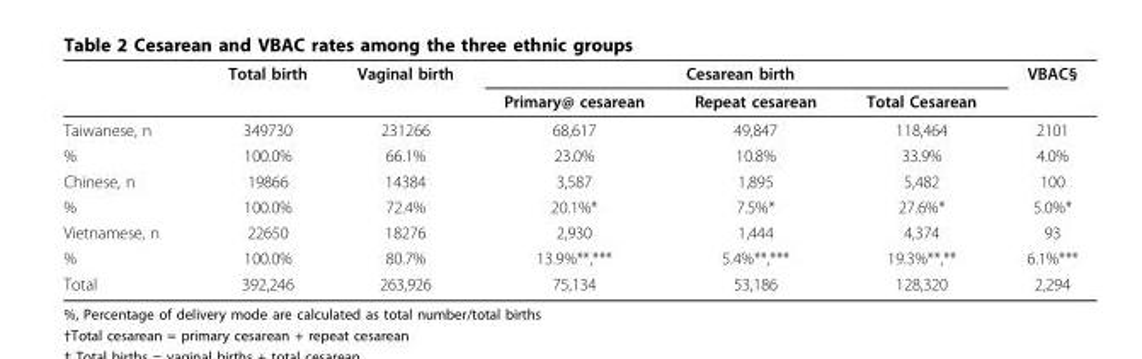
<table><thead><tr><td rowspan="2"></td><td rowspan="2">Total birth</td><td rowspan="2">Vaginal birth</td><td colspan="3">Cesarean birth</td><td rowspan="2">VBAC§</td></tr><tr><td>Primary@ cesarean</td><td>Repeat cesarean</td><td>Total Cesarean</td></tr></thead><tbody><tr><td>Taiwanese, n</td><td>349730</td><td>231266</td><td>68,617</td><td>49,847</td><td>118,464</td><td>2101</td></tr><tr><td>%</td><td>100.0%</td><td>66.1%</td><td>23.0%</td><td>10.8%</td><td>33.9%</td><td>4.0%</td></tr><tr><td>Chinese, n</td><td>19866</td><td>14384</td><td>3,587</td><td>1,895</td><td>5,482</td><td>100</td></tr><tr><td>%</td><td>100.0%</td><td>72.4%</td><td>20.1%*</td><td>7.5%*</td><td>27.6%*</td><td>5.0%*</td></tr><tr><td>Vietnamese, n</td><td>22650</td><td>18276</td><td>2,930</td><td>1,444</td><td>4,374</td><td>93</td></tr><tr><td>%</td><td>100.0%</td><td>80.7%</td><td>13.9%**,***</td><td>5.4%**,***</td><td>19.3%**,**</td><td>6.1%***</td></tr><tr><td>Total</td><td>392,246</td><td>263,926</td><td>75,134</td><td>53,186</td><td>128,320</td><td>2,294</td></tr></tbody></table>